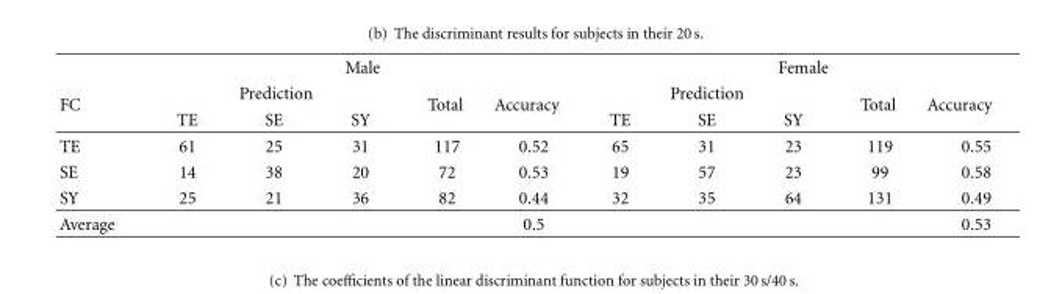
<table><thead><tr><td rowspan="3">FC</td><td colspan="5">Male</td><td colspan="5">Female</td></tr><tr><td colspan="3">Prediction</td><td rowspan="2">Total</td><td rowspan="2">Accuracy</td><td colspan="3">Prediction</td><td rowspan="2">Total</td><td rowspan="2">Accuracy</td></tr><tr><td>TE</td><td>SE</td><td>SY</td><td>TE</td><td>SE</td><td>SY</td></tr></thead><tbody><tr><td>TE</td><td>61</td><td>25</td><td>31</td><td>117</td><td>0.52</td><td>65</td><td>31</td><td>23</td><td>119</td><td>0.55</td></tr><tr><td>SE</td><td>14</td><td>38</td><td>20</td><td>72</td><td>0.53</td><td>19</td><td>57</td><td>23</td><td>99</td><td>0.58</td></tr><tr><td>SY</td><td>25</td><td>21</td><td>36</td><td>82</td><td>0.44</td><td>32</td><td>35</td><td>64</td><td>131</td><td>0.49</td></tr><tr><td>Average</td><td></td><td></td><td></td><td></td><td>0.5</td><td></td><td></td><td></td><td></td><td>0.53</td></tr></tbody></table>